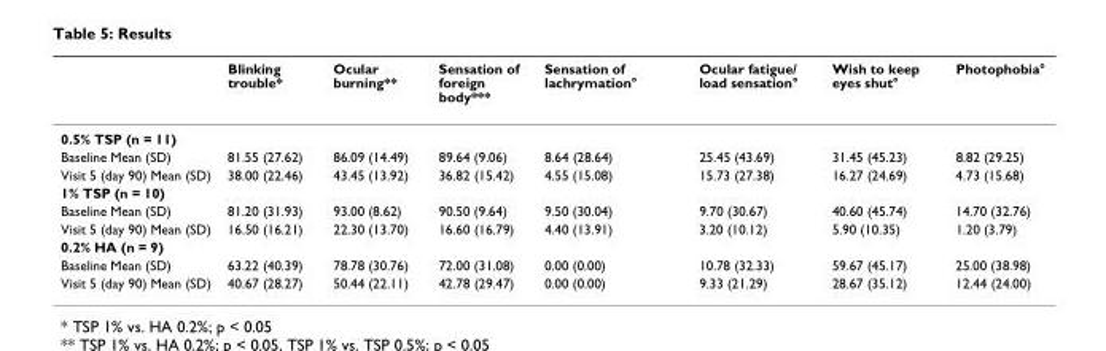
<table><thead><tr><td></td><td>Blinking trouble*</td><td>Ocular burning**</td><td>Sensation of foreign body***</td><td>Sensation of lachrymation°</td><td>Ocular fatigue/ load sensation°</td><td>Wish to keep eyes shut°</td><td>Photophobia°</td></tr></thead><tbody><tr><td colspan="8">0.5% TSP (n = 11)</td></tr><tr><td>Baseline Mean (SD)</td><td>81.55 (27.62)</td><td>86.09 (14.49)</td><td>89.64 (9.06)</td><td>8.64 (28.64)</td><td>25.45 (43.69)</td><td>31.45 (45.23)</td><td>8.82 (29.25)</td></tr><tr><td>Visit 5 (day 90) Mean (SD)</td><td>38.00 (22.46)</td><td>43.45 (13.92)</td><td>36.82 (15.42)</td><td>4.55 (15.08)</td><td>15.73 (27.38)</td><td>16.27 (24.69)</td><td>4.73 (15.68)</td></tr><tr><td colspan="8">1% TSP (n = 10)</td></tr><tr><td>Baseline Mean (SD)</td><td>81.20 (31.93)</td><td>93.00 (8.62)</td><td>90.50 (9.64)</td><td>9.50 (30.04)</td><td>9.70 (30.67)</td><td>40.60 (45.74)</td><td>14.70 (32.76)</td></tr><tr><td>Visit 5 (day 90) Mean (SD)</td><td>16.50 (16.21)</td><td>22.30 (13.70)</td><td>16.60 (16.79)</td><td>4.40 (13.91)</td><td>3.20 (10.12)</td><td>5.90 (10.35)</td><td>1.20 (3.79)</td></tr><tr><td colspan="8">0.2% HA (n = 9)</td></tr><tr><td>Baseline Mean (SD)</td><td>63.22 (40.39)</td><td>78.78 (30.76)</td><td>72.00 (31.08)</td><td>0.00 (0.00)</td><td>10.78 (32.33)</td><td>59.67 (45.17)</td><td>25.00 (38.98)</td></tr><tr><td>Visit 5 (day 90) Mean (SD)</td><td>40.67 (28.27)</td><td>50.44 (22.11)</td><td>42.78 (29.47)</td><td>0.00 (0.00)</td><td>9.33 (21.29)</td><td>28.67 (35.12)</td><td>12.44 (24.00)</td></tr></tbody></table>